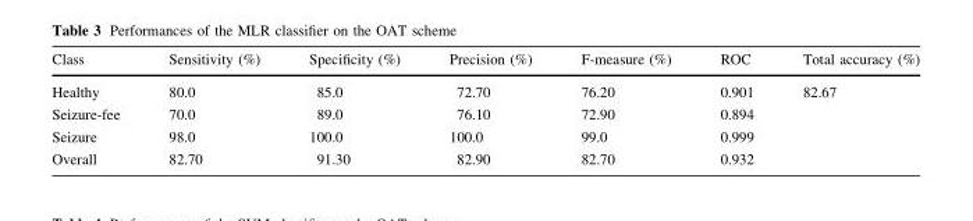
<table><thead><tr><td>Class</td><td>Sensitivity (%)</td><td>Specificity (%)</td><td>Precision (%)</td><td>F-measure (%)</td><td>ROC</td><td>Total accuracy (%)</td></tr></thead><tbody><tr><td>Healthy</td><td>80.0</td><td>85.0</td><td>72.70</td><td>76.20</td><td>0.901</td><td rowspan="4">82.67</td></tr><tr><td>Seizure-fee</td><td>70.0</td><td>89.0</td><td>76.10</td><td>72.90</td><td>0.894</td></tr><tr><td>Seizure</td><td>98.0</td><td>100.0</td><td>100.0</td><td>99.0</td><td>0.999</td></tr><tr><td>Overall</td><td>82.70</td><td>91.30</td><td>82.90</td><td>82.70</td><td>0.932</td></tr></tbody></table>